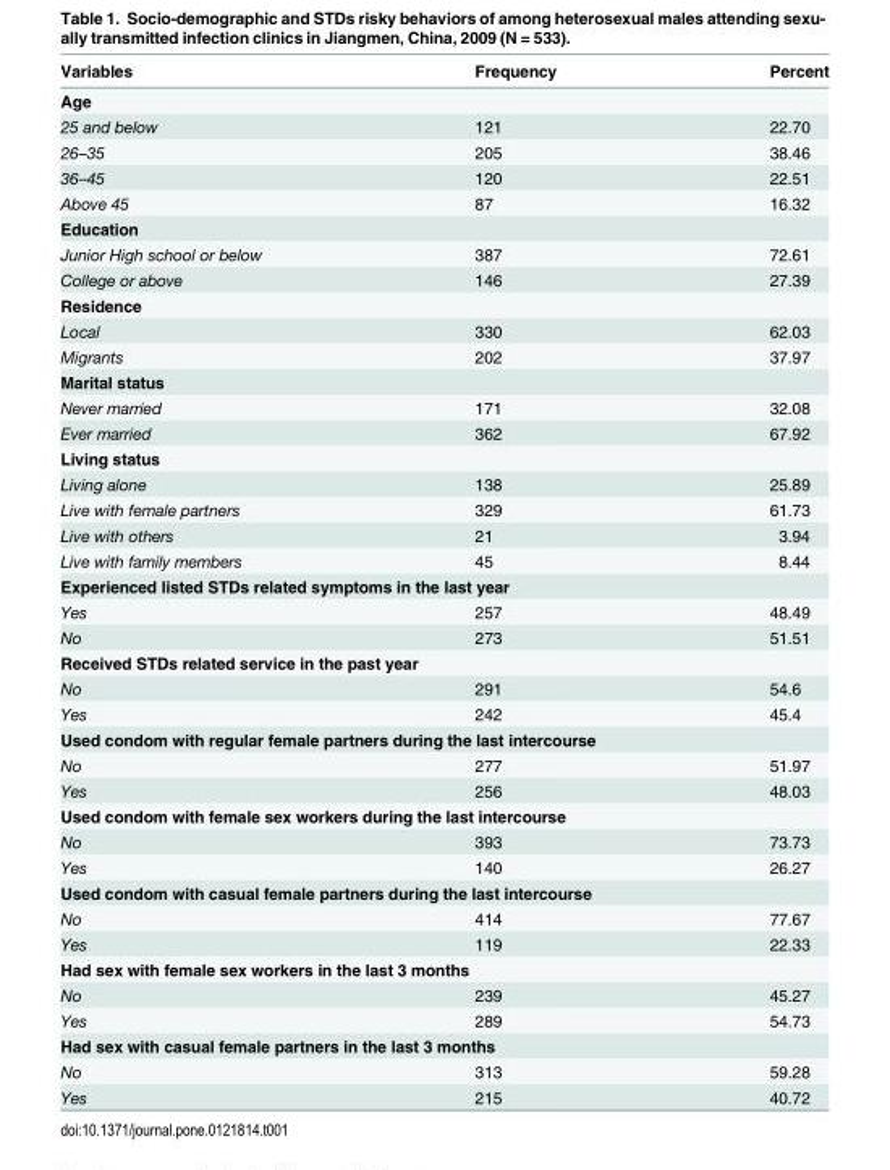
<table><thead><tr><td>Variables</td><td>Frequency</td><td>Percent</td></tr></thead><tbody><tr><td colspan="3">Age</td></tr><tr><td>25 and below</td><td>121</td><td>22.70</td></tr><tr><td>26–35</td><td>205</td><td>38.46</td></tr><tr><td>36–45</td><td>120</td><td>22.51</td></tr><tr><td>Above 45</td><td>87</td><td>16.32</td></tr><tr><td colspan="3">Education</td></tr><tr><td>Junior High school or below</td><td>387</td><td>72.61</td></tr><tr><td>College or above</td><td>146</td><td>27.39</td></tr><tr><td colspan="3">Residence</td></tr><tr><td>Local</td><td>330</td><td>62.03</td></tr><tr><td>Migrants</td><td>202</td><td>37.97</td></tr><tr><td colspan="3">Marital status</td></tr><tr><td>Never married</td><td>171</td><td>32.08</td></tr><tr><td>Ever married</td><td>362</td><td>67.92</td></tr><tr><td colspan="3">Living status</td></tr><tr><td>Living alone</td><td>138</td><td>25.89</td></tr><tr><td>Live with female partners</td><td>329</td><td>61.73</td></tr><tr><td>Live with others</td><td>21</td><td>3.94</td></tr><tr><td>Live with family members</td><td>45</td><td>8.44</td></tr><tr><td colspan="3">Experienced listed STDs related symptoms in the last year</td></tr><tr><td>Yes</td><td>257</td><td>48.49</td></tr><tr><td>No</td><td>273</td><td>51.51</td></tr><tr><td colspan="3">Received STDs related service in the past year</td></tr><tr><td>No</td><td>291</td><td>54.6</td></tr><tr><td>Yes</td><td>242</td><td>45.4</td></tr><tr><td colspan="3">Used condom with regular female partners during the last intercourse</td></tr><tr><td>No</td><td>277</td><td>51.97</td></tr><tr><td>Yes</td><td>256</td><td>48.03</td></tr><tr><td colspan="3">Used condom with female sex workers during the last intercourse</td></tr><tr><td>No</td><td>393</td><td>73.73</td></tr><tr><td>Yes</td><td>140</td><td>26.27</td></tr><tr><td colspan="3">Used condom with casual female partners during the last intercourse</td></tr><tr><td>No</td><td>414</td><td>77.67</td></tr><tr><td>Yes</td><td>119</td><td>22.33</td></tr><tr><td colspan="3">Had sex with female sex workers in the last 3 months</td></tr><tr><td>No</td><td>239</td><td>45.27</td></tr><tr><td>Yes</td><td>289</td><td>54.73</td></tr><tr><td colspan="3">Had sex with casual female partners in the last 3 months</td></tr><tr><td>No</td><td>313</td><td>59.28</td></tr><tr><td>Yes</td><td>215</td><td>40.72</td></tr></tbody></table>